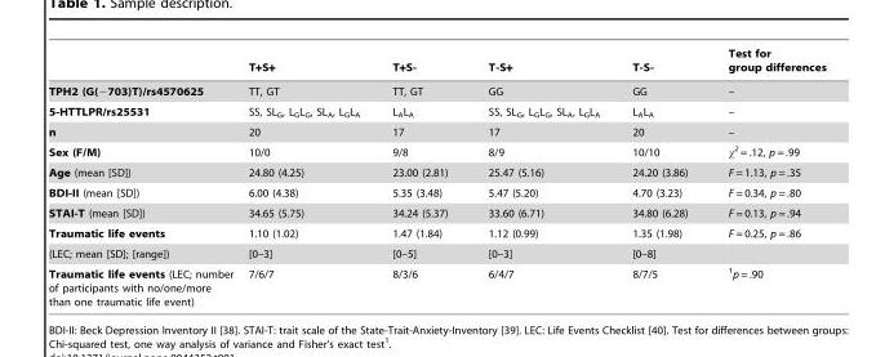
<table><thead><tr><td></td><td>T+S+</td><td>T+S-</td><td>T-S+</td><td>T-S-</td><td>Test for group differences</td></tr></thead><tbody><tr><td>TPH2 (G(−703)T)/rs4570625</td><td>TT, GT</td><td>TT, GT</td><td>GG</td><td>GG</td><td>–</td></tr><tr><td>5-HTTLPR/rs25531</td><td>SS, SL<sub>G</sub>, L<sub>G</sub>L<sub>G</sub>, SL<sub>A</sub>, L<sub>G</sub>L<sub>A</sub></td><td>L<sub>A</sub>L<sub>A</sub></td><td>SS, SL<sub>G</sub>, L<sub>G</sub>L<sub>G</sub>, SL<sub>A</sub>, L<sub>G</sub>L<sub>A</sub></td><td>L<sub>A</sub>L<sub>A</sub></td><td>–</td></tr><tr><td>n</td><td>20</td><td>17</td><td>17</td><td>20</td><td>–</td></tr><tr><td>Sex (F/M)</td><td>10/0</td><td>9/8</td><td>8/9</td><td>10/10</td><td>χ<sup>2</sup> = .12, p = .99</td></tr><tr><td>Age (mean [SD])</td><td>24.80 (4.25)</td><td>23.00 (2.81)</td><td>25.47 (5.16)</td><td>24.20 (3.86)</td><td>F = 1.13, p = .35</td></tr><tr><td>BDI-II (mean [SD])</td><td>6.00 (4.38)</td><td>5.35 (3.48)</td><td>5.47 (5.20)</td><td>4.70 (3.23)</td><td>F = 0.34, p = .80</td></tr><tr><td>STAI-T (mean [SD])</td><td>34.65 (5.75)</td><td>34.24 (5.37)</td><td>33.60 (6.71)</td><td>34.80 (6.28)</td><td>F = 0.13, p = .94</td></tr><tr><td>Traumatic life events</td><td>1.10 (1.02)</td><td>1.47 (1.84)</td><td>1.12 (0.99)</td><td>1.35 (1.98)</td><td>F = 0.25, p = .86</td></tr><tr><td>(LEC; mean [SD]; [range])</td><td>[0–3]</td><td>[0–5]</td><td>[0–3]</td><td>[0–8]</td><td></td></tr><tr><td>Traumatic life events (LEC; number of participants with no/one/more than one traumatic life event)</td><td>7/6/7</td><td>8/3/6</td><td>6/4/7</td><td>8/7/5</td><td><sup>1</sup>p = .90</td></tr></tbody></table>